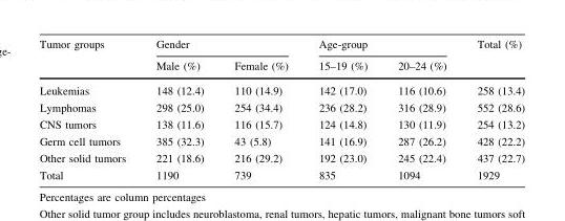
<table><thead><tr><td rowspan="2">Tumor groups</td><td colspan="2">Gender</td><td colspan="2">Age-group</td><td rowspan="2">Total (%)</td></tr><tr><td>Male (%)</td><td>Female (%)</td><td>15–19 (%)</td><td>20–24 (%)</td></tr></thead><tbody><tr><td>Leukemias</td><td>148 (12.4)</td><td>110 (14.9)</td><td>142 (17.0)</td><td>116 (10.6)</td><td>258 (13.4)</td></tr><tr><td>Lymphomas</td><td>298 (25.0)</td><td>254 (34.4)</td><td>236 (28.2)</td><td>316 (28.9)</td><td>552 (28.6)</td></tr><tr><td>CNS tumors</td><td>138 (11.6)</td><td>116 (15.7)</td><td>124 (14.8)</td><td>130 (11.9)</td><td>254 (13.2)</td></tr><tr><td>Germ cell tumors</td><td>385 (32.3)</td><td>43 (5.8)</td><td>141 (16.9)</td><td>287 (26.2)</td><td>428 (22.2)</td></tr><tr><td>Other solid tumors</td><td>221 (18.6)</td><td>216 (29.2)</td><td>192 (23.0)</td><td>245 (22.4)</td><td>437 (22.7)</td></tr><tr><td>Total</td><td>1190</td><td>739</td><td>835</td><td>1094</td><td>1929</td></tr></tbody></table>